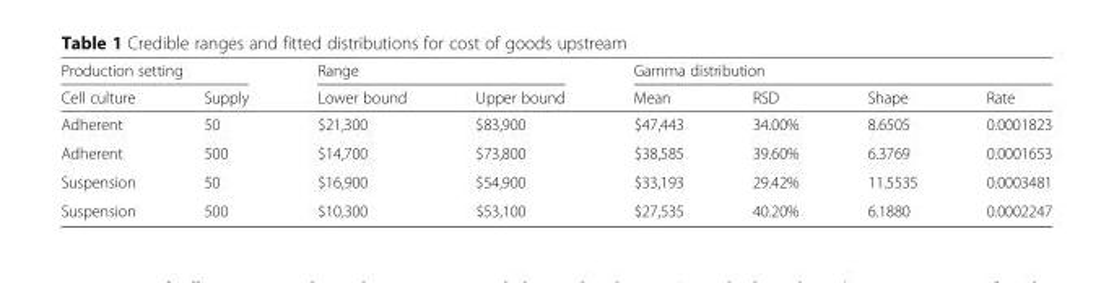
<table><thead><tr><td colspan="2">Production setting</td><td colspan="2">Range</td><td colspan="4">Gamma distribution</td></tr><tr><td>Cell culture</td><td>Supply</td><td>Lower bound</td><td>Upper bound</td><td>Mean</td><td>RSD</td><td>Shape</td><td>Rate</td></tr></thead><tbody><tr><td>Adherent</td><td>50</td><td>$21,300</td><td>$83,900</td><td>$47,443</td><td>34.00%</td><td>8.6505</td><td>0.0001823</td></tr><tr><td>Adherent</td><td>500</td><td>$14,700</td><td>$73,800</td><td>$38,585</td><td>39.60%</td><td>6.3769</td><td>0.0001653</td></tr><tr><td>Suspension</td><td>50</td><td>$16,900</td><td>$54,900</td><td>$33,193</td><td>29.42%</td><td>11.5535</td><td>0.0003481</td></tr><tr><td>Suspension</td><td>500</td><td>$10,300</td><td>$53,100</td><td>$27,535</td><td>40.20%</td><td>6.1880</td><td>0.0002247</td></tr></tbody></table>